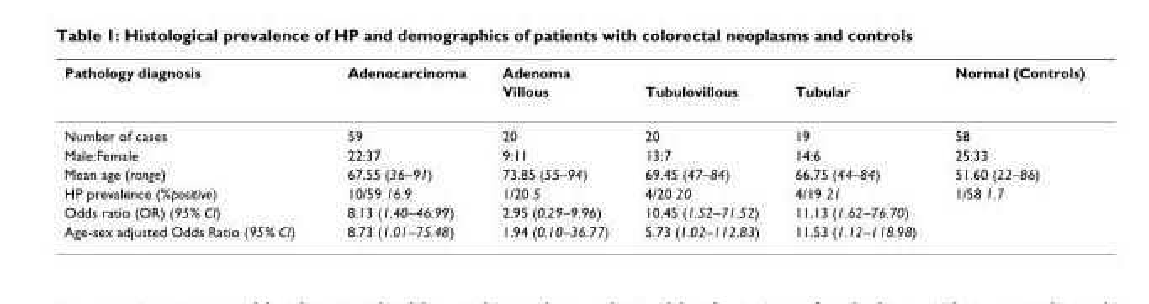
<table><thead><tr><td rowspan="2">Pathology diagnosis</td><td rowspan="2">Adenocarcinoma</td><td colspan="3">Adenoma</td><td rowspan="2">Normal (Controls)</td></tr><tr><td>Villous</td><td>Tubulovillous</td><td>Tubular</td></tr></thead><tbody><tr><td>Number of cases</td><td>59</td><td>20</td><td>20</td><td>19</td><td>58</td></tr><tr><td>Male:Female</td><td>22:37</td><td>9:11</td><td>13:7</td><td>14:6</td><td>25:33</td></tr><tr><td>Mean age (range)</td><td>67.55 (36–91)</td><td>73.85 (55–94)</td><td>69.45 (47–84)</td><td>66.75 (44–84)</td><td>51.60 (22–86)</td></tr><tr><td>HP prevalence (%positive)</td><td>10/59 16.9</td><td>1/20 5</td><td>4/20 20</td><td>4/19 21</td><td>1/58 1.7</td></tr><tr><td>Odds ratio (OR) (95% CI)</td><td>8.13 (1.40–46.99)</td><td>2.95 (0.29–9.96)</td><td>10.45 (1.52–71.52)</td><td>11.13 (1.62–76.70)</td><td></td></tr><tr><td>Age-sex adjusted Odds Ratio (95% CI)</td><td>8.73 (1.01–75.48)</td><td>1.94 (0.10–36.77)</td><td>5.73 (1.02–112.83)</td><td>11.53 (1.12–118.98)</td><td></td></tr></tbody></table>